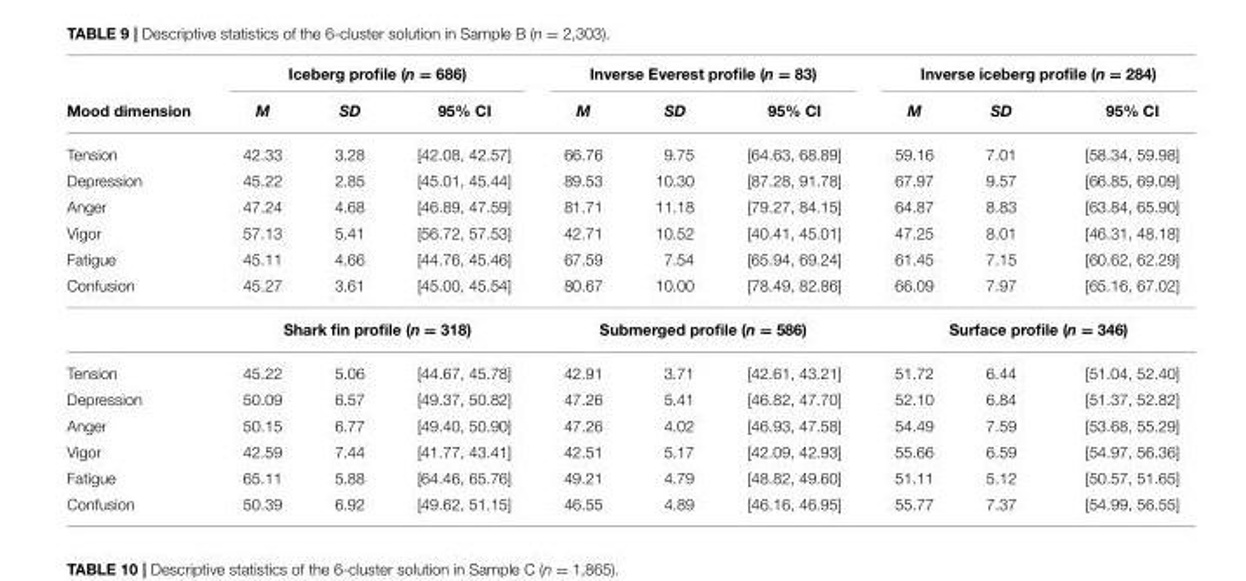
<table><thead><tr><td rowspan="2">Mood dimension</td><td colspan="3">Iceberg profile (n = 686)</td><td colspan="3">Inverse Everest profile (n = 83)</td><td colspan="3">Inverse iceberg profile (n = 284)</td></tr><tr><td>M</td><td>SD</td><td>95% CI</td><td>M</td><td>SD</td><td>95% CI</td><td>M</td><td>SD</td><td>95% CI</td></tr></thead><tbody><tr><td>Tension</td><td>42.33</td><td>3.28</td><td>[42.08, 42.57]</td><td>66.76</td><td>9.75</td><td>[64.63, 68.89]</td><td>59.16</td><td>7.01</td><td>[58.34, 59.98]</td></tr><tr><td>Depression</td><td>45.22</td><td>2.85</td><td>[45.01, 45.44]</td><td>89.53</td><td>10.30</td><td>[87.28, 91.78]</td><td>67.97</td><td>9.57</td><td>[66.85, 69.09]</td></tr><tr><td>Anger</td><td>47.24</td><td>4.68</td><td>[46.89, 47.59]</td><td>81.71</td><td>11.18</td><td>[79.27, 84.15]</td><td>64.87</td><td>8.83</td><td>[63.84, 65.90]</td></tr><tr><td>Vigor</td><td>57.13</td><td>5.41</td><td>[56.72, 57.53]</td><td>42.71</td><td>10.52</td><td>[40.41, 45.01]</td><td>47.25</td><td>8.01</td><td>[46.31, 48.18]</td></tr><tr><td>Fatigue</td><td>45.11</td><td>4.66</td><td>[44.76, 45.46]</td><td>67.59</td><td>7.54</td><td>[65.94, 69.24]</td><td>61.45</td><td>7.15</td><td>[60.62, 62.29]</td></tr><tr><td rowspan="2">Confusion</td><td>45.27</td><td>3.61</td><td>[45.00, 45.54]</td><td>80.67</td><td>10.00</td><td>[78.49, 82.86]</td><td>66.09</td><td>7.97</td><td>[65.16, 67.02]</td></tr><tr><td colspan="3">Shark fin profile (n = 318)</td><td colspan="3">Submerged profile (n = 586)</td><td colspan="3">Surface profile (n = 346)</td></tr><tr><td>Tension</td><td>45.22</td><td>5.06</td><td>[44.67, 45.78]</td><td>42.91</td><td>3.71</td><td>[42.61, 43.21]</td><td>51.72</td><td>6.44</td><td>[51.04, 52.40]</td></tr><tr><td>Depression</td><td>50.09</td><td>6.57</td><td>[49.37, 50.82]</td><td>47.26</td><td>5.41</td><td>[46.82, 47.70]</td><td>52.10</td><td>6.84</td><td>[51.37, 52.82]</td></tr><tr><td>Anger</td><td>50.15</td><td>6.77</td><td>[49.40, 50.90]</td><td>47.26</td><td>4.02</td><td>[46.93, 47.58]</td><td>54.49</td><td>7.59</td><td>[53.68, 55.29]</td></tr><tr><td>Vigor</td><td>42.59</td><td>7.44</td><td>[41.77, 43.41]</td><td>42.51</td><td>5.17</td><td>[42.09, 42.93]</td><td>55.66</td><td>6.59</td><td>[54.97, 56.36]</td></tr><tr><td>Fatigue</td><td>65.11</td><td>5.88</td><td>[64.46, 65.76]</td><td>49.21</td><td>4.79</td><td>[48.82, 49.60]</td><td>51.11</td><td>5.12</td><td>[50.57, 51.65]</td></tr><tr><td>Confusion</td><td>50.39</td><td>6.92</td><td>[49.62, 51.15]</td><td>46.55</td><td>4.89</td><td>[46.16, 46.95]</td><td>55.77</td><td>7.37</td><td>[54.99, 56.55]</td></tr></tbody></table>